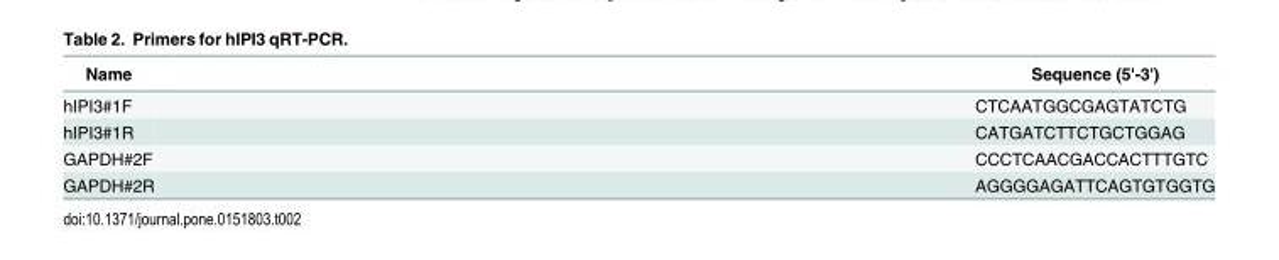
<table><thead><tr><td>Name</td><td>Sequence (5&#x27;-3&#x27;)</td></tr></thead><tbody><tr><td>hIPI3#1F</td><td>CTCAATGGCGAGTATCTG</td></tr><tr><td>hIPI3#1R</td><td>CATGATCTTCTGCTGGAG</td></tr><tr><td>GAPDH#2F</td><td>CCCTCAACGACCACTTTGTC</td></tr><tr><td>GAPDH#2R</td><td>AGGGGAGATTCAGTGTGGTG</td></tr></tbody></table>